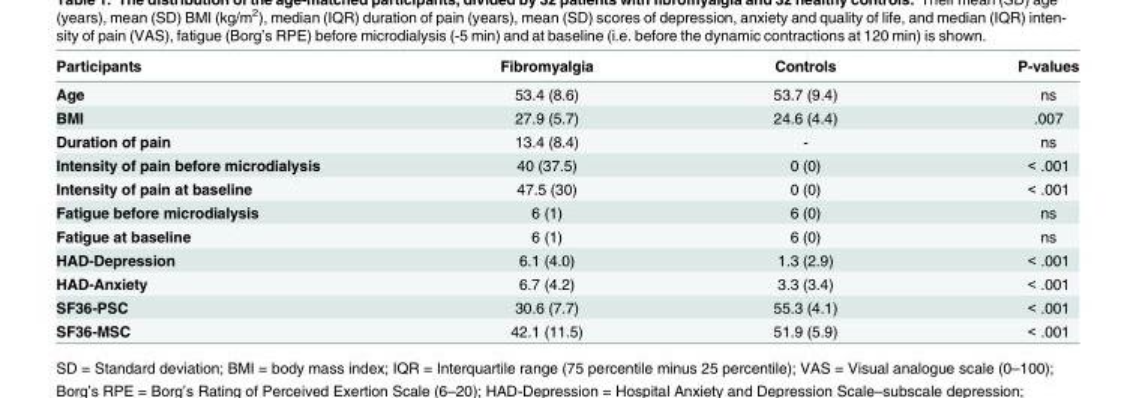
<table><thead><tr><td>Participants</td><td>Fibromyalgia</td><td>Controls</td><td>P-values</td></tr></thead><tbody><tr><td>Age</td><td>53.4 (8.6)</td><td>53.7 (9.4)</td><td>ns</td></tr><tr><td>BMI</td><td>27.9 (5.7)</td><td>24.6 (4.4)</td><td>.007</td></tr><tr><td>Duration of pain</td><td>13.4 (8.4)</td><td>-</td><td>ns</td></tr><tr><td>Intensity of pain before microdialysis</td><td>40 (37.5)</td><td>0 (0)</td><td>&lt; .001</td></tr><tr><td>Intensity of pain at baseline</td><td>47.5 (30)</td><td>0 (0)</td><td>&lt; .001</td></tr><tr><td>Fatigue before microdialysis</td><td>6 (1)</td><td>6 (0)</td><td>ns</td></tr><tr><td>Fatigue at baseline</td><td>6 (1)</td><td>6 (0)</td><td>ns</td></tr><tr><td>HAD-Depression</td><td>6.1 (4.0)</td><td>1.3 (2.9)</td><td>&lt; .001</td></tr><tr><td>HAD-Anxiety</td><td>6.7 (4.2)</td><td>3.3 (3.4)</td><td>&lt; .001</td></tr><tr><td>SF36-PSC</td><td>30.6 (7.7)</td><td>55.3 (4.1)</td><td>&lt; .001</td></tr><tr><td>SF36-MSC</td><td>42.1 (11.5)</td><td>51.9 (5.9)</td><td>&lt; .001</td></tr></tbody></table>